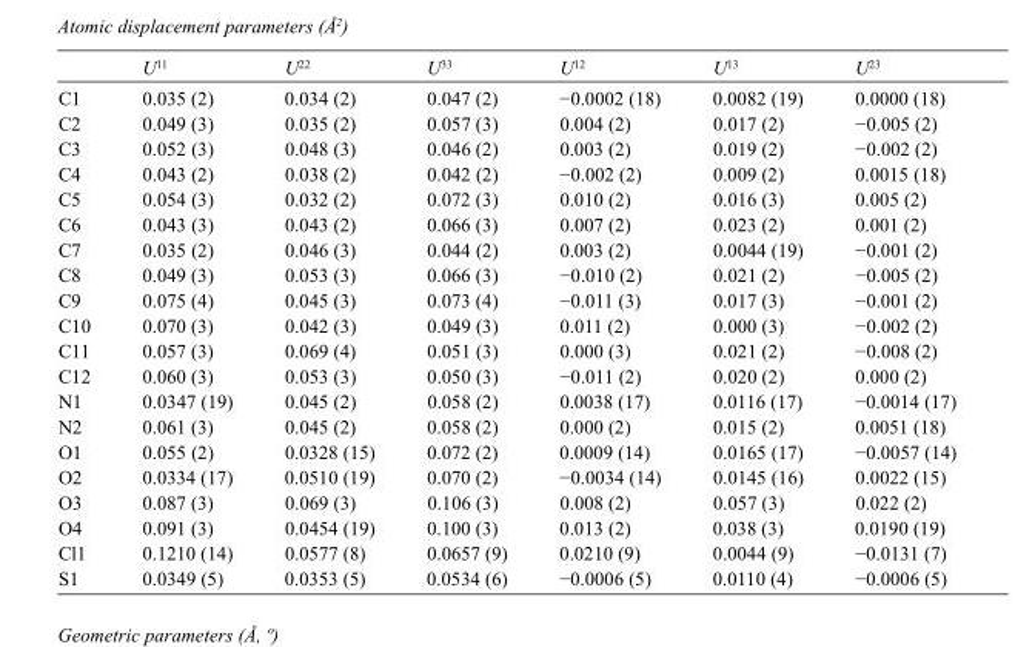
<table><thead><tr><td></td><td>U<sup>11</sup></td><td>U<sup>22</sup></td><td>U<sup>33</sup></td><td>U<sup>12</sup></td><td>U<sup>13</sup></td><td>U<sup>23</sup></td></tr></thead><tbody><tr><td>C1</td><td>0.035 (2)</td><td>0.034 (2)</td><td>0.047 (2)</td><td>−0.0002 (18)</td><td>0.0082 (19)</td><td>0.0000 (18)</td></tr><tr><td>C2</td><td>0.049 (3)</td><td>0.035 (2)</td><td>0.057 (3)</td><td>0.004 (2)</td><td>0.017 (2)</td><td>−0.005 (2)</td></tr><tr><td>C3</td><td>0.052 (3)</td><td>0.048 (3)</td><td>0.046 (2)</td><td>0.003 (2)</td><td>0.019 (2)</td><td>−0.002 (2)</td></tr><tr><td>C4</td><td>0.043 (2)</td><td>0.038 (2)</td><td>0.042 (2)</td><td>−0.002 (2)</td><td>0.009 (2)</td><td>0.0015 (18)</td></tr><tr><td>C5</td><td>0.054 (3)</td><td>0.032 (2)</td><td>0.072 (3)</td><td>0.010 (2)</td><td>0.016 (3)</td><td>0.005 (2)</td></tr><tr><td>C6</td><td>0.043 (3)</td><td>0.043 (2)</td><td>0.066 (3)</td><td>0.007 (2)</td><td>0.023 (2)</td><td>0.001 (2)</td></tr><tr><td>C7</td><td>0.035 (2)</td><td>0.046 (3)</td><td>0.044 (2)</td><td>0.003 (2)</td><td>0.0044 (19)</td><td>−0.001 (2)</td></tr><tr><td>C8</td><td>0.049 (3)</td><td>0.053 (3)</td><td>0.066 (3)</td><td>−0.010 (2)</td><td>0.021 (2)</td><td>−0.005 (2)</td></tr><tr><td>C9</td><td>0.075 (4)</td><td>0.045 (3)</td><td>0.073 (4)</td><td>−0.011 (3)</td><td>0.017 (3)</td><td>−0.001 (2)</td></tr><tr><td>C10</td><td>0.070 (3)</td><td>0.042 (3)</td><td>0.049 (3)</td><td>0.011 (2)</td><td>0.000 (3)</td><td>−0.002 (2)</td></tr><tr><td>C11</td><td>0.057 (3)</td><td>0.069 (4)</td><td>0.051 (3)</td><td>0.000 (3)</td><td>0.021 (2)</td><td>−0.008 (2)</td></tr><tr><td>C12</td><td>0.060 (3)</td><td>0.053 (3)</td><td>0.050 (3)</td><td>−0.011 (2)</td><td>0.020 (2)</td><td>0.000 (2)</td></tr><tr><td>N1</td><td>0.0347 (19)</td><td>0.045 (2)</td><td>0.058 (2)</td><td>0.0038 (17)</td><td>0.0116 (17)</td><td>−0.0014 (17)</td></tr><tr><td>N2</td><td>0.061 (3)</td><td>0.045 (2)</td><td>0.058 (2)</td><td>0.000 (2)</td><td>0.015 (2)</td><td>0.0051 (18)</td></tr><tr><td>O1</td><td>0.055 (2)</td><td>0.0328 (15)</td><td>0.072 (2)</td><td>0.0009 (14)</td><td>0.0165 (17)</td><td>−0.0057 (14)</td></tr><tr><td>O2</td><td>0.0334 (17)</td><td>0.0510 (19)</td><td>0.070 (2)</td><td>−0.0034 (14)</td><td>0.0145 (16)</td><td>0.0022 (15)</td></tr><tr><td>O3</td><td>0.087 (3)</td><td>0.069 (3)</td><td>0.106 (3)</td><td>0.008 (2)</td><td>0.057 (3)</td><td>0.022 (2)</td></tr><tr><td>O4</td><td>0.091 (3)</td><td>0.0454 (19)</td><td>0.100 (3)</td><td>0.013 (2)</td><td>0.038 (3)</td><td>0.0190 (19)</td></tr><tr><td>Cl1</td><td>0.1210 (14)</td><td>0.0577 (8)</td><td>0.0657 (9)</td><td>0.0210 (9)</td><td>0.0044 (9)</td><td>−0.0131 (7)</td></tr><tr><td>S1</td><td>0.0349 (5)</td><td>0.0353 (5)</td><td>0.0534 (6)</td><td>−0.0006 (5)</td><td>0.0110 (4)</td><td>−0.0006 (5)</td></tr></tbody></table>